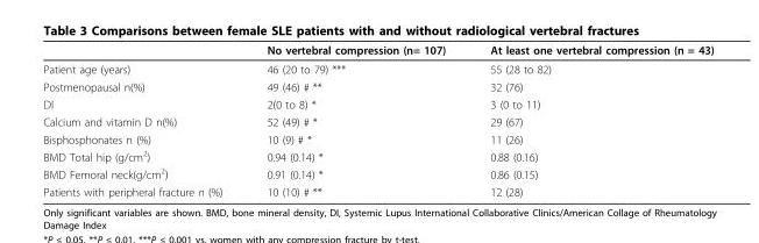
<table><thead><tr><td></td><td>No vertebral compression (n= 107)</td><td>At least one vertebral compression (n = 43)</td></tr></thead><tbody><tr><td>Patient age (years)</td><td>46 (20 to 79) ***</td><td>55 (28 to 82)</td></tr><tr><td>Postmenopausal n(%)</td><td>49 (46) # **</td><td>32 (76)</td></tr><tr><td>DI</td><td>2(0 to 8) *</td><td>3 (0 to 11)</td></tr><tr><td>Calcium and vitamin D n(%)</td><td>52 (49) # *</td><td>29 (67)</td></tr><tr><td>Bisphosphonates n (%)</td><td>10 (9) # *</td><td>11 (26)</td></tr><tr><td>BMD Total hip (g/cm<sup>2</sup>)</td><td>0.94 (0.14) *</td><td>0.88 (0.16)</td></tr><tr><td>BMD Femoral neck(g/cm<sup>2</sup>)</td><td>0.91 (0.14) *</td><td>0.86 (0.15)</td></tr><tr><td>Patients with peripheral fracture n (%)</td><td>10 (10) # **</td><td>12 (28)</td></tr></tbody></table>